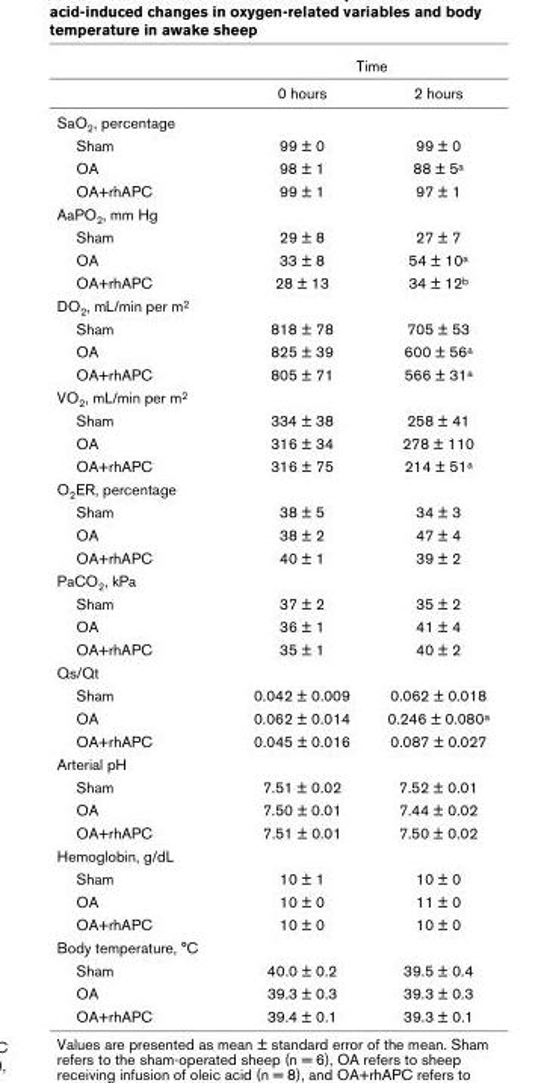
<table><thead><tr><td rowspan="2"></td><td colspan="2">Time</td></tr><tr><td>0 hours</td><td>2 hours</td></tr></thead><tbody><tr><td colspan="3">SaO<sub>2</sub>, percentage</td></tr><tr><td>Sham</td><td>99 ± 0</td><td>99 ± 0</td></tr><tr><td>OA</td><td>98 ± 1</td><td>88 ± 5<sup>a</sup></td></tr><tr><td>OA+rhAPC</td><td>99 ± 1</td><td>97 ± 1</td></tr><tr><td colspan="3">AaPO<sub>2</sub>, mm Hg</td></tr><tr><td>Sham</td><td>29 ± 8</td><td>27 ± 7</td></tr><tr><td>OA</td><td>33 ± 8</td><td>54 ± 10<sup>a</sup></td></tr><tr><td>OA+rhAPC</td><td>28 ± 13</td><td>34 ± 12<sup>b</sup></td></tr><tr><td colspan="3">DO<sub>2</sub>, mL/min per m<sup>2</sup></td></tr><tr><td>Sham</td><td>818 ± 78</td><td>705 ± 53</td></tr><tr><td>OA</td><td>825 ± 39</td><td>600 ± 56<sup>a</sup></td></tr><tr><td>OA+rhAPC</td><td>805 ± 71</td><td>566 ± 31<sup>a</sup></td></tr><tr><td colspan="3">VO<sub>2</sub>, mL/min per m<sup>2</sup></td></tr><tr><td>Sham</td><td>334 ± 38</td><td>258 ± 41</td></tr><tr><td>OA</td><td>316 ± 34</td><td>278 ± 110</td></tr><tr><td>OA+rhAPC</td><td>316 ± 75</td><td>214 ± 51<sup>a</sup></td></tr><tr><td colspan="3">O<sub>2</sub>ER, percentage</td></tr><tr><td>Sham</td><td>38 ± 5</td><td>34 ± 3</td></tr><tr><td>OA</td><td>38 ± 2</td><td>47 ± 4</td></tr><tr><td>OA+rhAPC</td><td>40 ± 1</td><td>39 ± 2</td></tr><tr><td colspan="3">PaCO<sub>2</sub>, kPa</td></tr><tr><td>Sham</td><td>37 ± 2</td><td>35 ± 2</td></tr><tr><td>OA</td><td>36 ± 1</td><td>41 ± 4</td></tr><tr><td>OA+rhAPC</td><td>35 ± 1</td><td>40 ± 2</td></tr><tr><td colspan="3">Qs/Qt</td></tr><tr><td>Sham</td><td>0.042 ± 0.009</td><td>0.062 ± 0.018</td></tr><tr><td>OA</td><td>0.062 ± 0.014</td><td>0.246 ± 0.080<sup>a</sup></td></tr><tr><td>OA+rhAPC</td><td>0.045 ± 0.016</td><td>0.087 ± 0.027</td></tr><tr><td colspan="3">Arterial pH</td></tr><tr><td>Sham</td><td>7.51 ± 0.02</td><td>7.52 ± 0.01</td></tr><tr><td>OA</td><td>7.50 ± 0.01</td><td>7.44 ± 0.02</td></tr><tr><td>OA+rhAPC</td><td>7.51 ± 0.01</td><td>7.50 ± 0.02</td></tr><tr><td colspan="3">Hemoglobin, g/dL</td></tr><tr><td>Sham</td><td>10 ± 1</td><td>10 ± 0</td></tr><tr><td>OA</td><td>10 ± 0</td><td>11 ± 0</td></tr><tr><td>OA+rhAPC</td><td>10 ± 0</td><td>10 ± 0</td></tr><tr><td colspan="3">Body temperature, °C</td></tr><tr><td>Sham</td><td>40.0 ± 0.2</td><td>39.5 ± 0.4</td></tr><tr><td>OA</td><td>39.3 ± 0.3</td><td>39.3 ± 0.3</td></tr><tr><td>OA+rhAPC</td><td>39.4 ± 0.1</td><td>39.3 ± 0.1</td></tr></tbody></table>